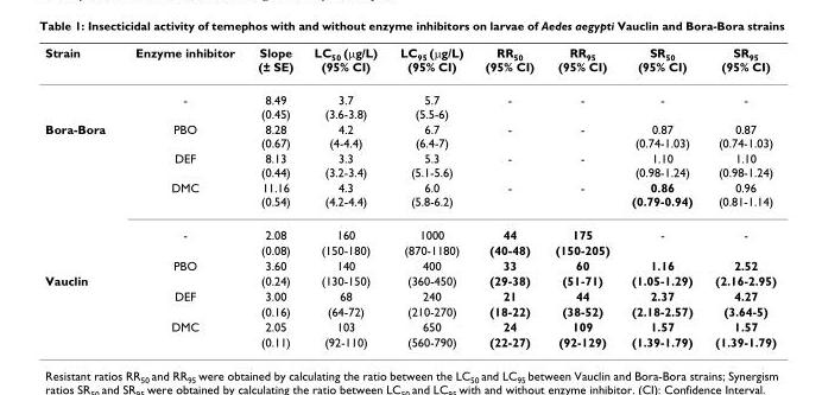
<table><thead><tr><td>Strain</td><td>Enzyme inhibitor</td><td>Slope (± SE)</td><td>LC<sub>50</sub> (μg/L) (95% CI)</td><td>LC<sub>95</sub> (μg/L) (95% CI)</td><td>RR<sub>50</sub> (95% CI)</td><td>RR<sub>95</sub> (95% CI)</td><td>SR<sub>50</sub> (95% CI)</td><td>SR<sub>95</sub> (95% CI)</td></tr></thead><tbody><tr><td></td><td>-</td><td>8.49 (0.45)</td><td>3.7 (3.6-3.8)</td><td>5.7 (5.5-6)</td><td>-</td><td>-</td><td>-</td><td>-</td></tr><tr><td rowspan="6">Bora-Bora</td><td>PBO</td><td>8.28 (0.67)</td><td>4.2 (4-4.4)</td><td>6.7 (6.4-7)</td><td>-</td><td>-</td><td>0.87 (0.74-1.03)</td><td>0.87 (0.74-1.03)</td></tr><tr><td>DEF</td><td>8.13 (0.44)</td><td>3.3 (3.2-3.4)</td><td>5.3 (5.1-5.6)</td><td>-</td><td>-</td><td>1.10 (0.98-1.24)</td><td>1.10 (0.98-1.24)</td></tr><tr><td>DMC</td><td>11.16 (0.54)</td><td>4.3 (4.2-4.4)</td><td>6.0 (5.8-6.2)</td><td>-</td><td>-</td><td>0.86 (0.79-0.94)</td><td>0.96 (0.81-1.14)</td></tr><tr><td>-</td><td>2.08</td><td>160</td><td>1000</td><td>44</td><td>175</td><td>-</td><td>-</td></tr><tr><td></td><td>(0.08)</td><td>(150-180)</td><td>(870-1180)</td><td>(40-48)</td><td>(150-205)</td><td></td><td></td></tr><tr><td>PBO</td><td>3.60</td><td>140</td><td>400</td><td>33</td><td>60</td><td>1.16</td><td>2.52</td></tr><tr><td rowspan="5">Vauclin</td><td></td><td>(0.24)</td><td>(130-150)</td><td>(360-450)</td><td>(29-38)</td><td>(51-71)</td><td>(1.05-1.29)</td><td>(2.16-2.95)</td></tr><tr><td>DEF</td><td>3.00</td><td>68</td><td>240</td><td>21</td><td>44</td><td>2.37</td><td>4.27</td></tr><tr><td></td><td>(0.16)</td><td>(64-72)</td><td>(210-270)</td><td>(18-22)</td><td>(38-52)</td><td>(2.18-2.57)</td><td>(3.64-5)</td></tr><tr><td>DMC</td><td>2.05</td><td>103</td><td>650</td><td>24</td><td>109</td><td>1.57</td><td>1.57</td></tr><tr><td></td><td>(0.11)</td><td>(92-110)</td><td>(560-790)</td><td>(22-27)</td><td>(92-129)</td><td>(1.39-1.79)</td><td>(1.39-1.79)</td></tr></tbody></table>